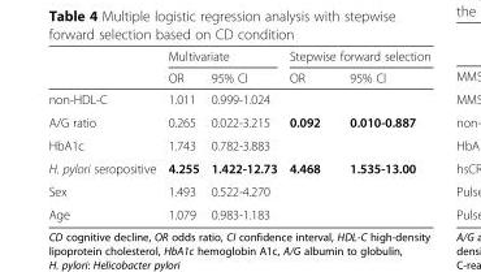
<table><thead><tr><td rowspan="2"></td><td colspan="2">Multivariate</td><td colspan="2">Stepwise forward selection</td></tr><tr><td>OR</td><td>95% CI</td><td>OR</td><td>95% CI</td></tr></thead><tbody><tr><td>non-HDL-C</td><td>1.011</td><td>0.999-1.024</td><td></td><td></td></tr><tr><td>A/G ratio</td><td>0.265</td><td>0.022-3.215</td><td>0.092</td><td>0.010-0.887</td></tr><tr><td>HbA1c</td><td>1.743</td><td>0.782-3.883</td><td></td><td></td></tr><tr><td>H. pylori seropositive</td><td>4.255</td><td>1.422-12.73</td><td>4.468</td><td>1.535-13.00</td></tr><tr><td>Sex</td><td>1.493</td><td>0.522-4.270</td><td></td><td></td></tr><tr><td>Age</td><td>1.079</td><td>0.983-1.183</td><td></td><td></td></tr></tbody></table>